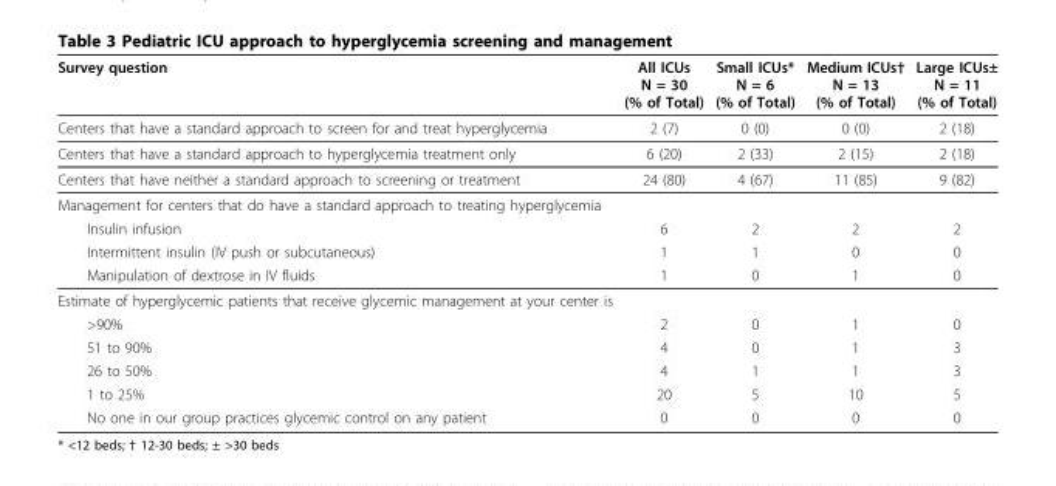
<table><thead><tr><td>Survey question</td><td>All ICUs N = 30 (% of Total)</td><td>Small ICUs* N = 6 (% of Total)</td><td>Medium ICUs† N = 13 (% of Total)</td><td>Large ICUs± N = 11 (% of Total)</td></tr></thead><tbody><tr><td>Centers that have a standard approach to screen for and treat hyperglycemia</td><td>2 (7)</td><td>0 (0)</td><td>0 (0)</td><td>2 (18)</td></tr><tr><td>Centers that have a standard approach to hyperglycemia treatment only</td><td>6 (20)</td><td>2 (33)</td><td>2 (15)</td><td>2 (18)</td></tr><tr><td>Centers that have neither a standard approach to screening or treatment</td><td>24 (80)</td><td>4 (67)</td><td>11 (85)</td><td>9 (82)</td></tr><tr><td colspan="5">Management for centers that do have a standard approach to treating hyperglycemia</td></tr><tr><td>Insulin infusion</td><td>6</td><td>2</td><td>2</td><td>2</td></tr><tr><td>Intermittent insulin (IV push or subcutaneous)</td><td>1</td><td>1</td><td>0</td><td>0</td></tr><tr><td>Manipulation of dextrose in IV fluids</td><td>1</td><td>0</td><td>1</td><td>0</td></tr><tr><td colspan="5">Estimate of hyperglycemic patients that receive glycemic management at your center is</td></tr><tr><td>&gt;90%</td><td>2</td><td>0</td><td>1</td><td>0</td></tr><tr><td>51 to 90%</td><td>4</td><td>0</td><td>1</td><td>3</td></tr><tr><td>26 to 50%</td><td>4</td><td>1</td><td>1</td><td>3</td></tr><tr><td>1 to 25%</td><td>20</td><td>5</td><td>10</td><td>5</td></tr><tr><td>No one in our group practices glycemic control on any patient</td><td>0</td><td>0</td><td>0</td><td>0</td></tr></tbody></table>